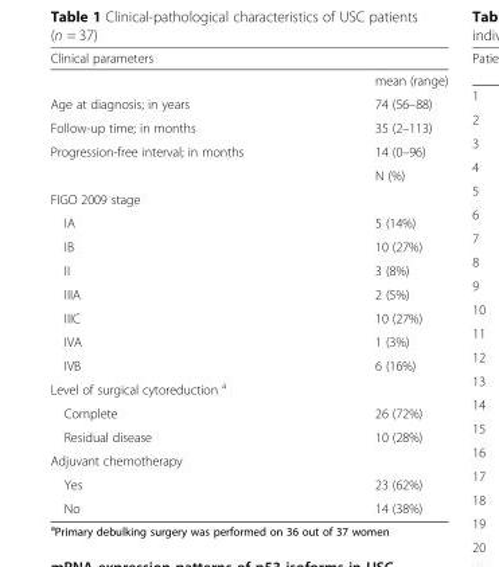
<table><thead><tr><td>Clinical parameters</td><td></td></tr></thead><tbody><tr><td></td><td>mean (range)</td></tr><tr><td>Age at diagnosis; in years</td><td>74 (56–88)</td></tr><tr><td>Follow-up time; in months</td><td>35 (2–113)</td></tr><tr><td rowspan="2">Progression-free interval; in months</td><td>14 (0–96)</td></tr><tr><td>N (%)</td></tr><tr><td colspan="2">FIGO 2009 stage</td></tr><tr><td>IA</td><td>5 (14%)</td></tr><tr><td>IB</td><td>10 (27%)</td></tr><tr><td>II</td><td>3 (8%)</td></tr><tr><td>IIIA</td><td>2 (5%)</td></tr><tr><td>IIIC</td><td>10 (27%)</td></tr><tr><td>IVA</td><td>1 (3%)</td></tr><tr><td>IVB</td><td>6 (16%)</td></tr><tr><td colspan="2">Level of surgical cytoreduction <sup>a</sup></td></tr><tr><td>Complete</td><td>26 (72%)</td></tr><tr><td>Residual disease</td><td>10 (28%)</td></tr><tr><td colspan="2">Adjuvant chemotherapy</td></tr><tr><td>Yes</td><td>23 (62%)</td></tr><tr><td>No</td><td>14 (38%)</td></tr></tbody></table>